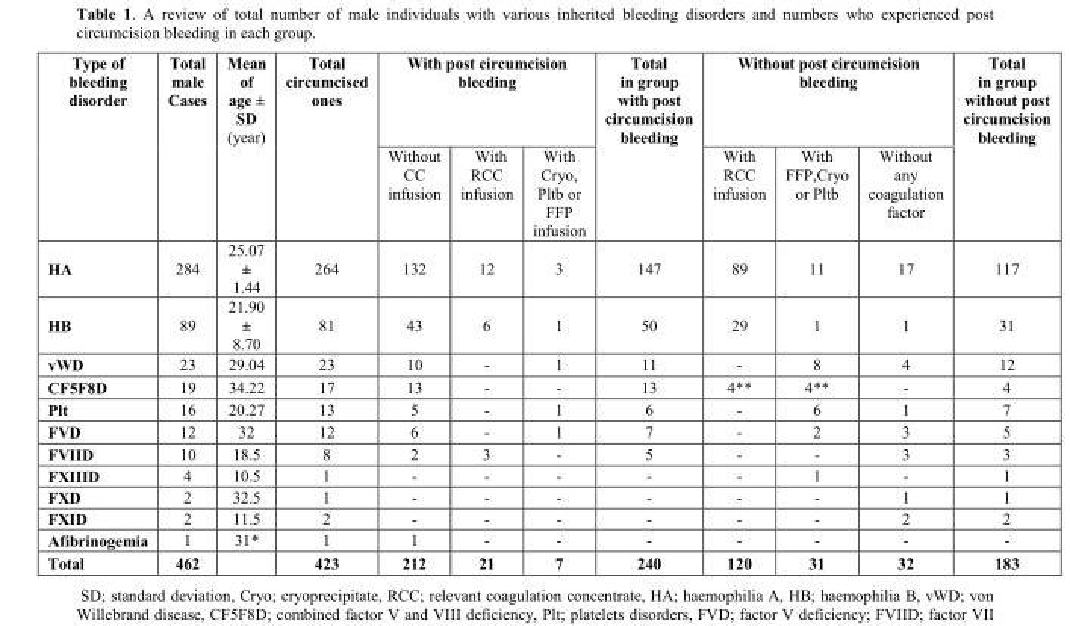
<table><thead><tr><td rowspan="2">Type of bleeding disorder</td><td rowspan="2">Total male Cases</td><td rowspan="2">Mean of age ± SD (year)</td><td rowspan="2">Total circumcised ones</td><td colspan="3">With post circumcision bleeding</td><td rowspan="2">Total in group with post circumcision bleeding</td><td colspan="3">Without post circumcision bleeding</td><td rowspan="2">Total in group without post circumcision bleeding</td></tr><tr><td>Without CC infusion</td><td>With RCC infusion</td><td>With Cryo, Pltb or FFP infusion</td><td>With RCC infusion</td><td>With FFP,Cryo or Pltb</td><td>Without any coagulation factor</td></tr></thead><tbody><tr><td>HA</td><td>284</td><td>25.07 ± 1.44</td><td>264</td><td>132</td><td>12</td><td>3</td><td>147</td><td>89</td><td>11</td><td>17</td><td>117</td></tr><tr><td>HB</td><td>89</td><td>21.90 ± 8.70</td><td>81</td><td>43</td><td>6</td><td>1</td><td>50</td><td>29</td><td>1</td><td>1</td><td>31</td></tr><tr><td>vWD</td><td>23</td><td>29.04</td><td>23</td><td>10</td><td>-</td><td>1</td><td>11</td><td>-</td><td>8</td><td>4</td><td>12</td></tr><tr><td>CF5F8D</td><td>19</td><td>34.22</td><td>17</td><td>13</td><td>-</td><td>-</td><td>13</td><td>4**</td><td>4**</td><td>-</td><td>4</td></tr><tr><td>Plt</td><td>16</td><td>20.27</td><td>13</td><td>5</td><td>-</td><td>1</td><td>6</td><td>-</td><td>6</td><td>1</td><td>7</td></tr><tr><td>FVD</td><td>12</td><td>32</td><td>12</td><td>6</td><td>-</td><td>1</td><td>7</td><td>-</td><td>2</td><td>3</td><td>5</td></tr><tr><td>FVIID</td><td>10</td><td>18.5</td><td>8</td><td>2</td><td>3</td><td>-</td><td>5</td><td>-</td><td>-</td><td>3</td><td>3</td></tr><tr><td>FXIIID</td><td>4</td><td>10.5</td><td>1</td><td>-</td><td>-</td><td>-</td><td>-</td><td>-</td><td>1</td><td>-</td><td>1</td></tr><tr><td>FXD</td><td>2</td><td>32.5</td><td>1</td><td>-</td><td>-</td><td>-</td><td>-</td><td>-</td><td>-</td><td>1</td><td>1</td></tr><tr><td>FXID</td><td>2</td><td>11.5</td><td>2</td><td>-</td><td>-</td><td>-</td><td>-</td><td>-</td><td>-</td><td>2</td><td>2</td></tr><tr><td>Afibrinogemia</td><td>1</td><td>31*</td><td>1</td><td>1</td><td>-</td><td>-</td><td>-</td><td>-</td><td>-</td><td>-</td><td>-</td></tr><tr><td>Total</td><td>462</td><td></td><td>423</td><td>212</td><td>21</td><td>7</td><td>240</td><td>120</td><td>31</td><td>32</td><td>183</td></tr></tbody></table>